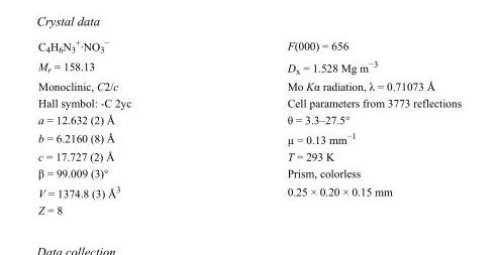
<table><tbody><tr><td>C<sub>4</sub>H<sub>6</sub>N<sub>3</sub> <sup>+</sup>·NO<sub>3</sub> <sup>−</sup></td><td>F(000) = 656</td></tr><tr><td>M<sub>r</sub> = 158.13</td><td>D<sub>x</sub> = 1.528 Mg m<sup>−3</sup></td></tr><tr><td>Monoclinic, C2/c</td><td>Mo Kα radiation, λ = 0.71073 Å</td></tr><tr><td>Hall symbol: -C 2yc</td><td>Cell parameters from 3773 reflections</td></tr><tr><td>a = 12.632 (2) Å</td><td>θ = 3.3–27.5°</td></tr><tr><td>b = 6.2160 (8) Å</td><td>µ = 0.13 mm<sup>−1</sup></td></tr><tr><td>c = 17.727 (2) Å</td><td>T = 293 K</td></tr><tr><td>β = 99.009 (3)°</td><td>Prism, colorless</td></tr><tr><td>V = 1374.8 (3) Å<sup>3</sup></td><td>0.25 × 0.20 × 0.15 mm</td></tr><tr><td>Z = 8</td><td></td></tr></tbody></table>